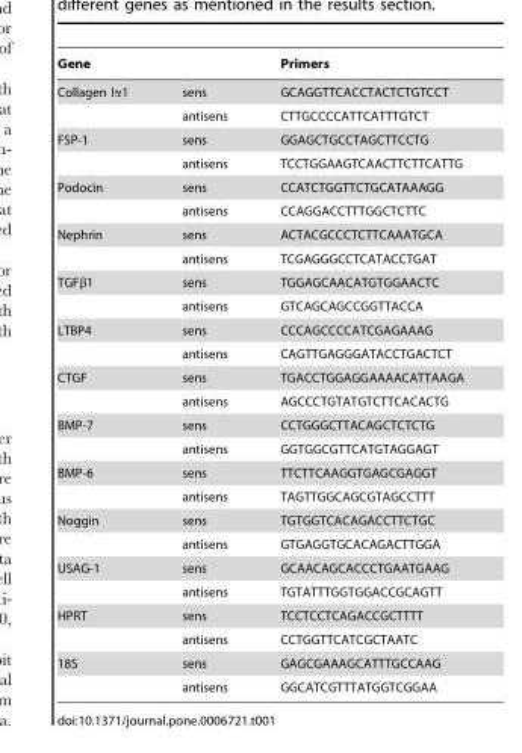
<table><thead><tr><td>Gene</td><td></td><td>Primers</td></tr></thead><tbody><tr><td rowspan="2">Collagen Iα1</td><td>sens</td><td>GCAGGTTCACCTACTCTGTCCT</td></tr><tr><td>antisens</td><td>CTTGCCCCATTCATTTGTCT</td></tr><tr><td rowspan="2">FSP-1</td><td>sens</td><td>GGAGCTGCCTAGCTTCCTG</td></tr><tr><td>antisens</td><td>TCCTGGAAGTCAACTTCTTCATTG</td></tr><tr><td rowspan="2">Podocin</td><td>sens</td><td>CCATCTGGTTCTGCATAAAGG</td></tr><tr><td>antisens</td><td>CCAGGACCTTTGGCTCTTC</td></tr><tr><td rowspan="2">Nephrin</td><td>sens</td><td>ACTACGCCCTCTTCAAATGCA</td></tr><tr><td>antisens</td><td>TCGAGGGCCTCATACCTGAT</td></tr><tr><td rowspan="2">TGFβ1</td><td>sens</td><td>TGGAGCAACATGTGGAACTC</td></tr><tr><td>antisens</td><td>GTCAGCAGCCGGTTACCA</td></tr><tr><td rowspan="2">LTBP4</td><td>sens</td><td>CCCAGCCCCATCGAGAAAG</td></tr><tr><td>antisens</td><td>CAGTTGAGGGATACCTGACTCT</td></tr><tr><td rowspan="2">CTGF</td><td>sens</td><td>TGACCTGGAGGAAAACATTAAGA</td></tr><tr><td>antisens</td><td>AGCCCTGTATGTCTTCACACTG</td></tr><tr><td rowspan="2">BMP-7</td><td>sens</td><td>CCTGGGCTTACAGCTCTCTG</td></tr><tr><td>antisens</td><td>GGTGGCGTTCATGTAGGAGT</td></tr><tr><td rowspan="2">BMP-6</td><td>sens</td><td>TTCTTCAAGGTGAGCGAGGT</td></tr><tr><td>antisens</td><td>TAGTTGGCAGCGTAGCCTTT</td></tr><tr><td rowspan="2">Noggin</td><td>sens</td><td>TGTGGTCACAGACCTTCTGC</td></tr><tr><td>antisens</td><td>GTGAGGTGCACAGACTTGGA</td></tr><tr><td rowspan="2">USAG-1</td><td>sens</td><td>GCAACAGCACCCTGAATGAAG</td></tr><tr><td>antisens</td><td>TGTATTTGGTGGACCGCAGTT</td></tr><tr><td rowspan="2">HPRT</td><td>sens</td><td>TCCTCCTCAGACCGCTTTT</td></tr><tr><td>antisens</td><td>CCTGGTTCATCGCTAATC</td></tr><tr><td rowspan="2">18S</td><td>sens</td><td>GAGCGAAAGCATTTGCCAAG</td></tr><tr><td>antisens</td><td>GGCATCGTTTATGGTCGGAA</td></tr></tbody></table>